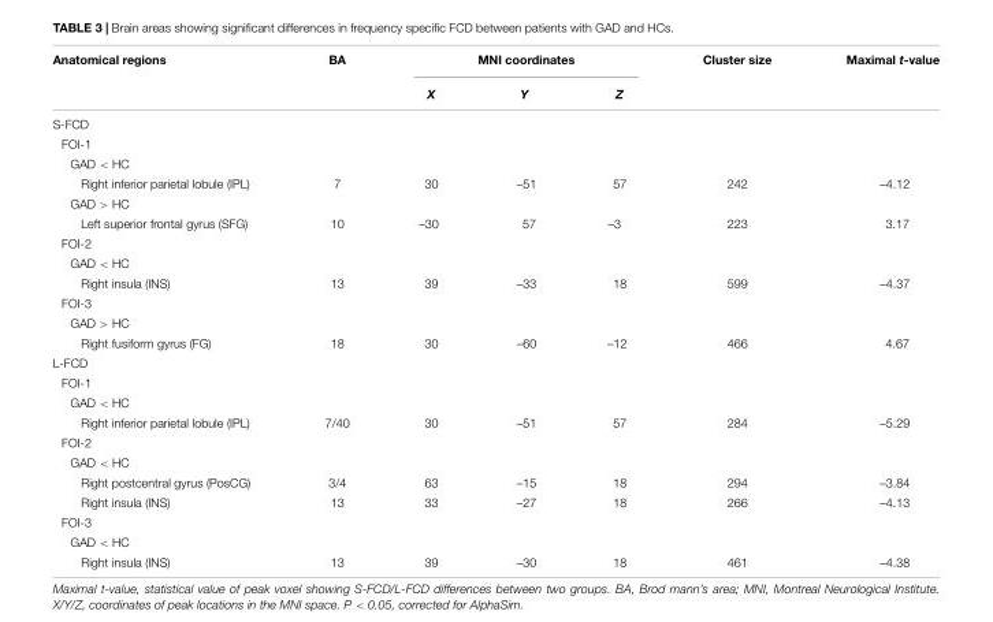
<table><thead><tr><td rowspan="2">Anatomical regions</td><td rowspan="2">BA</td><td colspan="3">MNI coordinates</td><td rowspan="2">Cluster size</td><td rowspan="2">Maximal t-value</td></tr><tr><td>X</td><td>Y</td><td>Z</td></tr></thead><tbody><tr><td colspan="7">S-FCD</td></tr><tr><td colspan="7">FOI-1</td></tr><tr><td colspan="7">GAD &lt; HC</td></tr><tr><td>Right inferior parietal lobule (IPL)</td><td>7</td><td>30</td><td>–51</td><td>57</td><td>242</td><td>–4.12</td></tr><tr><td colspan="7">GAD &gt; HC</td></tr><tr><td>Left superior frontal gyrus (SFG)</td><td>10</td><td>–30</td><td>57</td><td>–3</td><td>223</td><td>3.17</td></tr><tr><td colspan="7">FOI-2</td></tr><tr><td colspan="7">GAD &lt; HC</td></tr><tr><td>Right insula (INS)</td><td>13</td><td>39</td><td>–33</td><td>18</td><td>599</td><td>–4.37</td></tr><tr><td colspan="7">FOI-3</td></tr><tr><td colspan="7">GAD &gt; HC</td></tr><tr><td>Right fusiform gyrus (FG)</td><td>18</td><td>30</td><td>–60</td><td>–12</td><td>466</td><td>4.67</td></tr><tr><td colspan="7">L-FCD</td></tr><tr><td colspan="7">FOI-1</td></tr><tr><td colspan="7">GAD &lt; HC</td></tr><tr><td>Right inferior parietal lobule (IPL)</td><td>7/40</td><td>30</td><td>–51</td><td>57</td><td>284</td><td>–5.29</td></tr><tr><td colspan="7">FOI-2</td></tr><tr><td colspan="7">GAD &lt; HC</td></tr><tr><td>Right postcentral gyrus (PosCG)</td><td>3/4</td><td>63</td><td>–15</td><td>18</td><td>294</td><td>–3.84</td></tr><tr><td>Right insula (INS)</td><td>13</td><td>33</td><td>–27</td><td>18</td><td>266</td><td>–4.13</td></tr><tr><td colspan="7">FOI-3</td></tr><tr><td colspan="7">GAD &lt; HC</td></tr><tr><td>Right insula (INS)</td><td>13</td><td>39</td><td>–30</td><td>18</td><td>461</td><td>–4.38</td></tr></tbody></table>